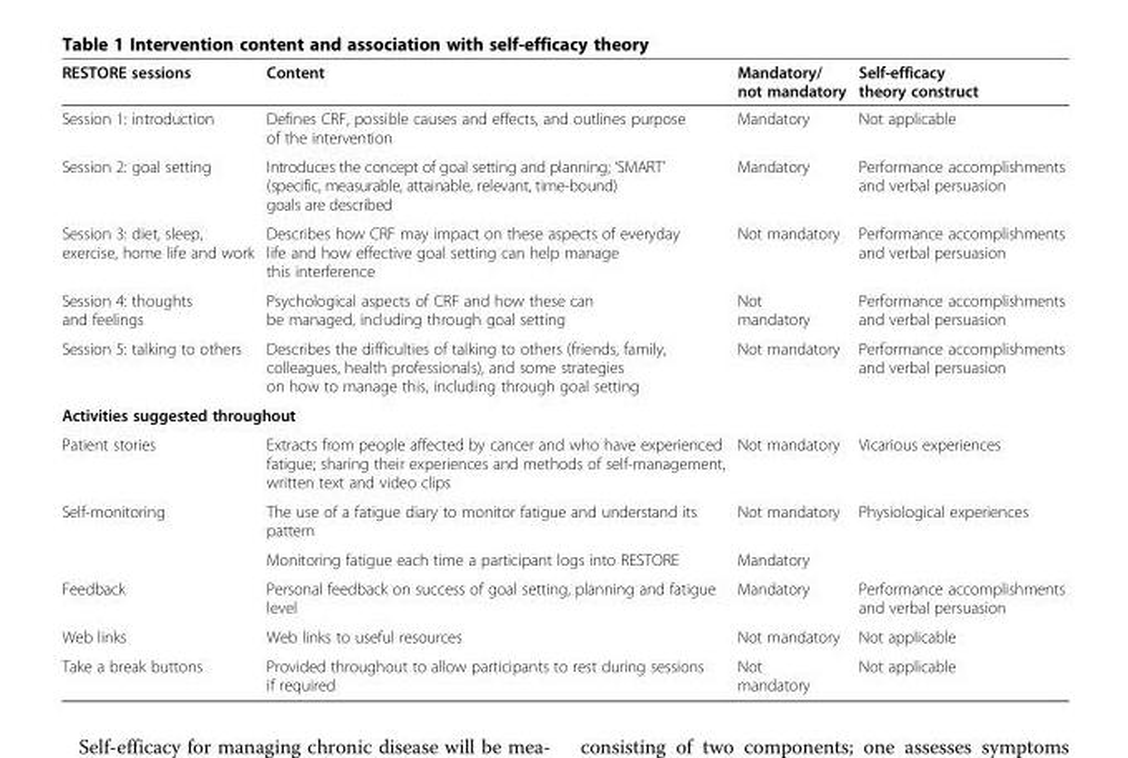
<table><thead><tr><td>RESTORE sessions</td><td>Content</td><td>Mandatory/ not mandatory</td><td>Self-efficacy theory construct</td></tr></thead><tbody><tr><td>Session 1: introduction</td><td>Defines CRF, possible causes and effects, and outlines purpose of the intervention</td><td>Mandatory</td><td>Not applicable</td></tr><tr><td>Session 2: goal setting</td><td>Introduces the concept of goal setting and planning; ‘SMART’ (specific, measurable, attainable, relevant, time-bound) goals are described</td><td>Mandatory</td><td>Performance accomplishments and verbal persuasion</td></tr><tr><td>Session 3: diet, sleep, exercise, home life and work</td><td>Describes how CRF may impact on these aspects of everyday life and how effective goal setting can help manage this interference</td><td>Not mandatory</td><td>Performance accomplishments and verbal persuasion</td></tr><tr><td>Session 4: thoughts and feelings</td><td>Psychological aspects of CRF and how these can be managed, including through goal setting</td><td>Not mandatory</td><td>Performance accomplishments and verbal persuasion</td></tr><tr><td>Session 5: talking to others</td><td>Describes the difficulties of talking to others (friends, family, colleagues, health professionals), and some strategies on how to manage this, including through goal setting</td><td>Not mandatory</td><td>Performance accomplishments and verbal persuasion</td></tr><tr><td colspan="4">Activities suggested throughout</td></tr><tr><td>Patient stories</td><td>Extracts from people affected by cancer and who have experienced fatigue; sharing their experiences and methods of self-management, written text and video clips</td><td>Not mandatory</td><td>Vicarious experiences</td></tr><tr><td rowspan="2">Self-monitoring</td><td>The use of a fatigue diary to monitor fatigue and understand its pattern</td><td>Not mandatory</td><td rowspan="2">Physiological experiences</td></tr><tr><td>Monitoring fatigue each time a participant logs into RESTORE</td><td>Mandatory</td></tr><tr><td>Feedback</td><td>Personal feedback on success of goal setting, planning and fatigue level</td><td>Mandatory</td><td>Performance accomplishments and verbal persuasion</td></tr><tr><td>Web links</td><td>Web links to useful resources</td><td>Not mandatory</td><td>Not applicable</td></tr><tr><td>Take a break buttons</td><td>Provided throughout to allow participants to rest during sessions if required</td><td>Not mandatory</td><td>Not applicable</td></tr></tbody></table>